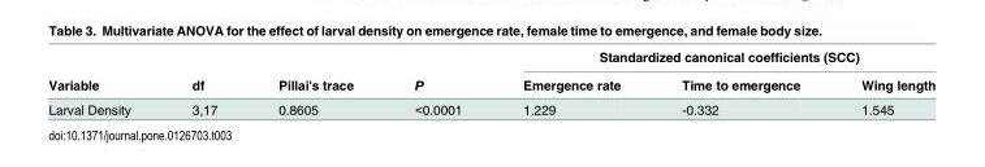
<table><thead><tr><td rowspan="2">Variable</td><td rowspan="2">df</td><td rowspan="2">Pillai&#x27;s trace</td><td rowspan="2">P</td><td colspan="3">Standardized canonical coefficients (SCC)</td></tr><tr><td>Emergence rate</td><td>Time to emergence</td><td>Wing length</td></tr></thead><tbody><tr><td>Larval Density</td><td>3,17</td><td>0.8605</td><td>&lt;0.0001</td><td>1.229</td><td>-0.332</td><td>1.545</td></tr></tbody></table>